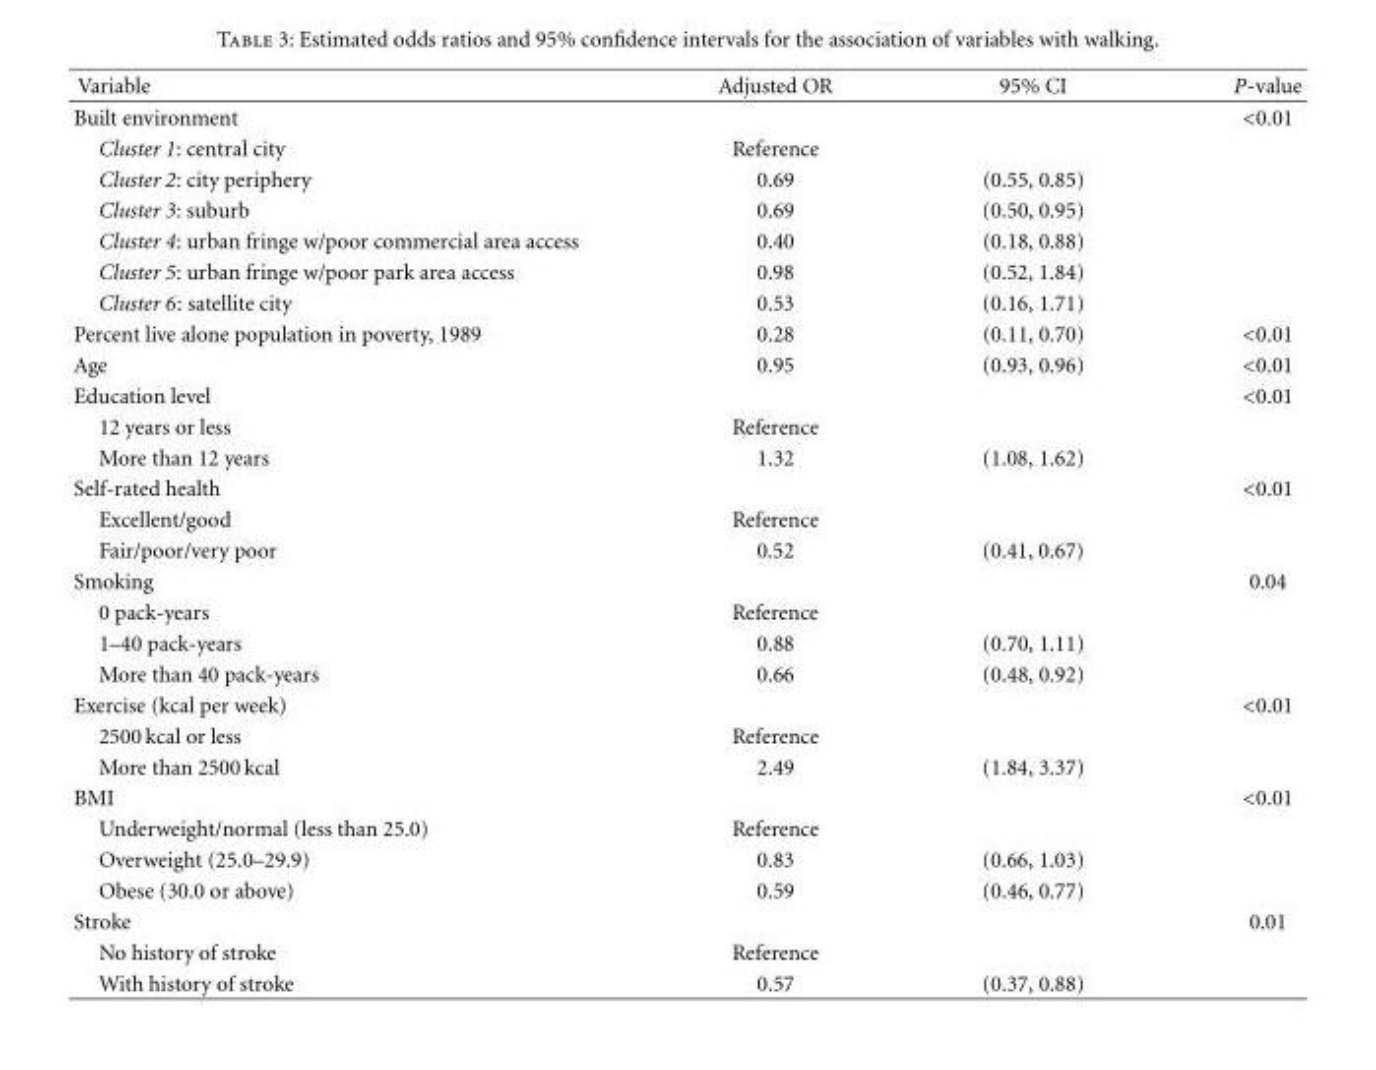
<table><thead><tr><td>Variable</td><td>Adjusted OR</td><td>95% CI</td><td>P-value</td></tr></thead><tbody><tr><td>Built environment</td><td></td><td></td><td>&lt;0.01</td></tr><tr><td>Cluster 1: central city</td><td>Reference</td><td></td><td></td></tr><tr><td>Cluster 2: city periphery</td><td>0.69</td><td>(0.55, 0.85)</td><td></td></tr><tr><td>Cluster 3: suburb</td><td>0.69</td><td>(0.50, 0.95)</td><td></td></tr><tr><td>Cluster 4: urban fringe w/poor commercial area access</td><td>0.40</td><td>(0.18, 0.88)</td><td></td></tr><tr><td>Cluster 5: urban fringe w/poor park area access</td><td>0.98</td><td>(0.52, 1.84)</td><td></td></tr><tr><td>Cluster 6: satellite city</td><td>0.53</td><td>(0.16, 1.71)</td><td></td></tr><tr><td>Percent live alone population in poverty, 1989</td><td>0.28</td><td>(0.11, 0.70)</td><td>&lt;0.01</td></tr><tr><td>Age</td><td>0.95</td><td>(0.93, 0.96)</td><td>&lt;0.01</td></tr><tr><td>Education level</td><td></td><td></td><td>&lt;0.01</td></tr><tr><td>12 years or less</td><td>Reference</td><td></td><td></td></tr><tr><td>More than 12 years</td><td>1.32</td><td>(1.08, 1.62)</td><td></td></tr><tr><td>Self-rated health</td><td></td><td></td><td>&lt;0.01</td></tr><tr><td>Excellent/good</td><td>Reference</td><td></td><td></td></tr><tr><td>Fair/poor/very poor</td><td>0.52</td><td>(0.41, 0.67)</td><td></td></tr><tr><td>Smoking</td><td></td><td></td><td>0.04</td></tr><tr><td>0 pack-years</td><td>Reference</td><td></td><td></td></tr><tr><td>1–40 pack-years</td><td>0.88</td><td>(0.70, 1.11)</td><td></td></tr><tr><td>More than 40 pack-years</td><td>0.66</td><td>(0.48, 0.92)</td><td></td></tr><tr><td>Exercise (kcal per week)</td><td></td><td></td><td>&lt;0.01</td></tr><tr><td>2500 kcal or less</td><td>Reference</td><td></td><td></td></tr><tr><td>More than 2500 kcal</td><td>2.49</td><td>(1.84, 3.37)</td><td></td></tr><tr><td>BMI</td><td></td><td></td><td>&lt;0.01</td></tr><tr><td>Underweight/normal (less than 25.0)</td><td>Reference</td><td></td><td></td></tr><tr><td>Overweight (25.0–29.9)</td><td>0.83</td><td>(0.66, 1.03)</td><td></td></tr><tr><td>Obese (30.0 or above)</td><td>0.59</td><td>(0.46, 0.77)</td><td></td></tr><tr><td>Stroke</td><td></td><td></td><td>0.01</td></tr><tr><td>No history of stroke</td><td>Reference</td><td></td><td></td></tr><tr><td>With history of stroke</td><td>0.57</td><td>(0.37, 0.88)</td><td></td></tr></tbody></table>